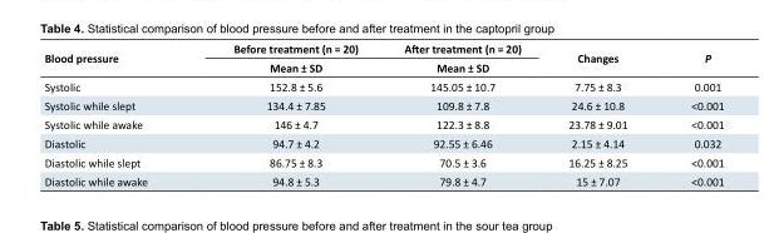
<table><tbody><tr><td rowspan="2">Blood pressure</td><td>Before treatment (n = 20)</td><td>After treatment (n = 20)</td><td rowspan="2">Changes</td><td rowspan="2">P</td></tr><tr><td>Mean ± SD</td><td>Mean ± SD</td></tr><tr><td>Systolic</td><td>152.8 ± 5.6</td><td>145.05 ± 10.7</td><td>7.75 ± 8.3</td><td>0.001</td></tr><tr><td>Systolic while slept</td><td>134.4 ± 7.85</td><td>109.8 ± 7.8</td><td>24.6 ± 10.8</td><td>&lt;0.001</td></tr><tr><td>Systolic while awake</td><td>146 ± 4.7</td><td>122.3 ± 8.8</td><td>23.78 ± 9.01</td><td>&lt;0.001</td></tr><tr><td>Diastolic</td><td>94.7 ± 4.2</td><td>92.55 ± 6.46</td><td>2.15 ± 4.14</td><td>0.032</td></tr><tr><td>Diastolic while slept</td><td>86.75 ± 8.3</td><td>70.5 ± 3.6</td><td>16.25 ± 8.25</td><td>&lt;0.001</td></tr><tr><td>Diastolic while awake</td><td>94.8 ± 5.3</td><td>79.8 ± 4.7</td><td>15 ± 7.07</td><td>&lt;0.001</td></tr></tbody></table>